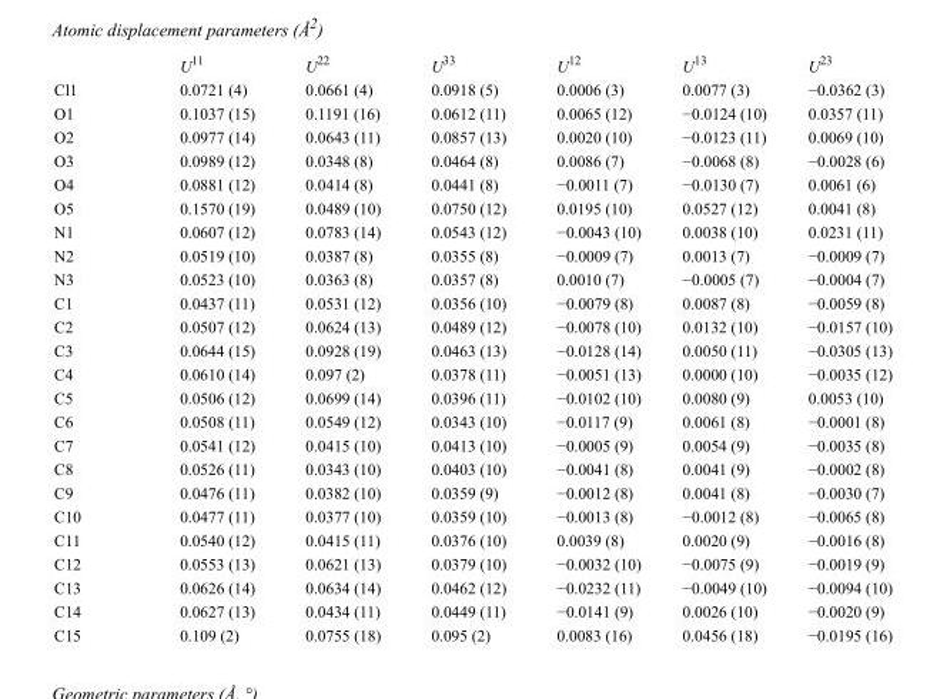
<table><thead><tr><td></td><td>U<sup>11</sup></td><td>U<sup>22</sup></td><td>U<sup>33</sup></td><td>U<sup>12</sup></td><td>U<sup>13</sup></td><td>U<sup>23</sup></td></tr></thead><tbody><tr><td>Cl1</td><td>0.0721 (4)</td><td>0.0661 (4)</td><td>0.0918 (5)</td><td>0.0006 (3)</td><td>0.0077 (3)</td><td>−0.0362 (3)</td></tr><tr><td>O1</td><td>0.1037 (15)</td><td>0.1191 (16)</td><td>0.0612 (11)</td><td>0.0065 (12)</td><td>−0.0124 (10)</td><td>0.0357 (11)</td></tr><tr><td>O2</td><td>0.0977 (14)</td><td>0.0643 (11)</td><td>0.0857 (13)</td><td>0.0020 (10)</td><td>−0.0123 (11)</td><td>0.0069 (10)</td></tr><tr><td>O3</td><td>0.0989 (12)</td><td>0.0348 (8)</td><td>0.0464 (8)</td><td>0.0086 (7)</td><td>−0.0068 (8)</td><td>−0.0028 (6)</td></tr><tr><td>O4</td><td>0.0881 (12)</td><td>0.0414 (8)</td><td>0.0441 (8)</td><td>−0.0011 (7)</td><td>−0.0130 (7)</td><td>0.0061 (6)</td></tr><tr><td>O5</td><td>0.1570 (19)</td><td>0.0489 (10)</td><td>0.0750 (12)</td><td>0.0195 (10)</td><td>0.0527 (12)</td><td>0.0041 (8)</td></tr><tr><td>N1</td><td>0.0607 (12)</td><td>0.0783 (14)</td><td>0.0543 (12)</td><td>−0.0043 (10)</td><td>0.0038 (10)</td><td>0.0231 (11)</td></tr><tr><td>N2</td><td>0.0519 (10)</td><td>0.0387 (8)</td><td>0.0355 (8)</td><td>−0.0009 (7)</td><td>0.0013 (7)</td><td>−0.0009 (7)</td></tr><tr><td>N3</td><td>0.0523 (10)</td><td>0.0363 (8)</td><td>0.0357 (8)</td><td>0.0010 (7)</td><td>−0.0005 (7)</td><td>−0.0004 (7)</td></tr><tr><td>C1</td><td>0.0437 (11)</td><td>0.0531 (12)</td><td>0.0356 (10)</td><td>−0.0079 (8)</td><td>0.0087 (8)</td><td>−0.0059 (8)</td></tr><tr><td>C2</td><td>0.0507 (12)</td><td>0.0624 (13)</td><td>0.0489 (12)</td><td>−0.0078 (10)</td><td>0.0132 (10)</td><td>−0.0157 (10)</td></tr><tr><td>C3</td><td>0.0644 (15)</td><td>0.0928 (19)</td><td>0.0463 (13)</td><td>−0.0128 (14)</td><td>0.0050 (11)</td><td>−0.0305 (13)</td></tr><tr><td>C4</td><td>0.0610 (14)</td><td>0.097 (2)</td><td>0.0378 (11)</td><td>−0.0051 (13)</td><td>0.0000 (10)</td><td>−0.0035 (12)</td></tr><tr><td>C5</td><td>0.0506 (12)</td><td>0.0699 (14)</td><td>0.0396 (11)</td><td>−0.0102 (10)</td><td>0.0080 (9)</td><td>0.0053 (10)</td></tr><tr><td>C6</td><td>0.0508 (11)</td><td>0.0549 (12)</td><td>0.0343 (10)</td><td>−0.0117 (9)</td><td>0.0061 (8)</td><td>−0.0001 (8)</td></tr><tr><td>C7</td><td>0.0541 (12)</td><td>0.0415 (10)</td><td>0.0413 (10)</td><td>−0.0005 (9)</td><td>0.0054 (9)</td><td>−0.0035 (8)</td></tr><tr><td>C8</td><td>0.0526 (11)</td><td>0.0343 (10)</td><td>0.0403 (10)</td><td>−0.0041 (8)</td><td>0.0041 (9)</td><td>−0.0002 (8)</td></tr><tr><td>C9</td><td>0.0476 (11)</td><td>0.0382 (10)</td><td>0.0359 (9)</td><td>−0.0012 (8)</td><td>0.0041 (8)</td><td>−0.0030 (7)</td></tr><tr><td>C10</td><td>0.0477 (11)</td><td>0.0377 (10)</td><td>0.0359 (10)</td><td>−0.0013 (8)</td><td>−0.0012 (8)</td><td>−0.0065 (8)</td></tr><tr><td>C11</td><td>0.0540 (12)</td><td>0.0415 (11)</td><td>0.0376 (10)</td><td>0.0039 (8)</td><td>0.0020 (9)</td><td>−0.0016 (8)</td></tr><tr><td>C12</td><td>0.0553 (13)</td><td>0.0621 (13)</td><td>0.0379 (10)</td><td>−0.0032 (10)</td><td>−0.0075 (9)</td><td>−0.0019 (9)</td></tr><tr><td>C13</td><td>0.0626 (14)</td><td>0.0634 (14)</td><td>0.0462 (12)</td><td>−0.0232 (11)</td><td>−0.0049 (10)</td><td>−0.0094 (10)</td></tr><tr><td>C14</td><td>0.0627 (13)</td><td>0.0434 (11)</td><td>0.0449 (11)</td><td>−0.0141 (9)</td><td>0.0026 (10)</td><td>−0.0020 (9)</td></tr><tr><td>C15</td><td>0.109 (2)</td><td>0.0755 (18)</td><td>0.095 (2)</td><td>0.0083 (16)</td><td>0.0456 (18)</td><td>−0.0195 (16)</td></tr></tbody></table>